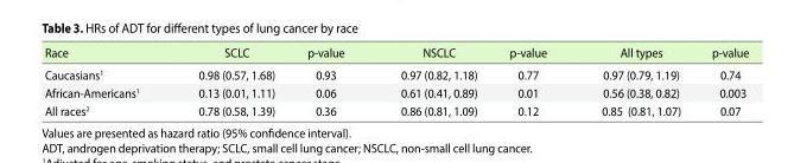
<table><thead><tr><td>Race</td><td>SCLC</td><td>p-value</td><td>NSCLC</td><td>p-value</td><td>All types</td><td>p-value</td></tr></thead><tbody><tr><td>Caucasians<sup>1</sup></td><td>0.98 (0.57, 1.68)</td><td>0.93</td><td>0.97 (0.82, 1.18)</td><td>0.77</td><td>0.97 (0.79, 1.19)</td><td>0.74</td></tr><tr><td>African-Americans<sup>1</sup></td><td>0.13 (0.01, 1.11)</td><td>0.06</td><td>0.61 (0.41, 0.89)</td><td>0.01</td><td>0.56 (0.38, 0.82)</td><td>0.003</td></tr><tr><td>All races<sup>2</sup></td><td>0.78 (0.58, 1.39)</td><td>0.36</td><td>0.86 (0.81, 1.09)</td><td>0.12</td><td>0.85 (0.81, 1.07)</td><td>0.07</td></tr></tbody></table>